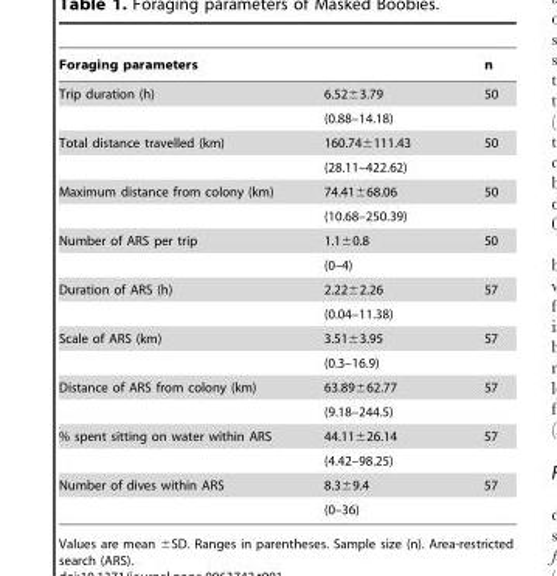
<table><thead><tr><td>Foraging parameters</td><td></td><td>n</td></tr></thead><tbody><tr><td rowspan="2">Trip duration (h)</td><td>6.52±3.79</td><td>50</td></tr><tr><td>(0.88–14.18)</td><td></td></tr><tr><td rowspan="2">Total distance travelled (km)</td><td>160.74±111.43</td><td>50</td></tr><tr><td>(28.11–422.62)</td><td></td></tr><tr><td rowspan="2">Maximum distance from colony (km)</td><td>74.41±68.06</td><td>50</td></tr><tr><td>(10.68–250.39)</td><td></td></tr><tr><td rowspan="2">Number of ARS per trip</td><td>1.1±0.8</td><td>50</td></tr><tr><td>(0–4)</td><td></td></tr><tr><td rowspan="2">Duration of ARS (h)</td><td>2.22±2.26</td><td>57</td></tr><tr><td>(0.04–11.38)</td><td></td></tr><tr><td rowspan="2">Scale of ARS (km)</td><td>3.51±3.95</td><td>57</td></tr><tr><td>(0.3–16.9)</td><td></td></tr><tr><td rowspan="2">Distance of ARS from colony (km)</td><td>63.89±62.77</td><td>57</td></tr><tr><td>(9.18–244.5)</td><td></td></tr><tr><td rowspan="2">% spent sitting on water within ARS</td><td>44.11±26.14</td><td>57</td></tr><tr><td>(4.42–98.25)</td><td></td></tr><tr><td rowspan="2">Number of dives within ARS</td><td>8.3±9.4</td><td>57</td></tr><tr><td>(0–36)</td><td></td></tr></tbody></table>